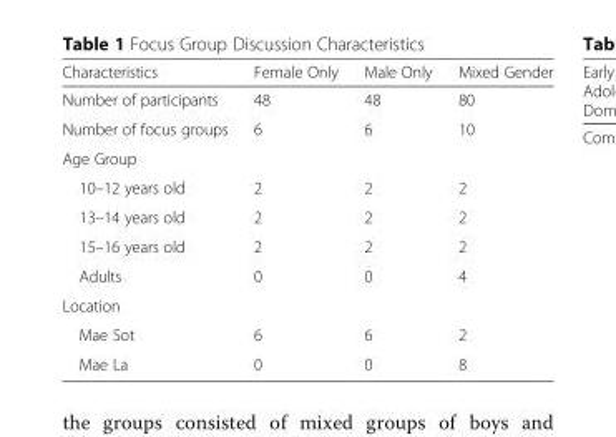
<table><thead><tr><td>Characteristics</td><td>Female Only</td><td>Male Only</td><td>Mixed Gender</td></tr></thead><tbody><tr><td>Number of participants</td><td>48</td><td>48</td><td>80</td></tr><tr><td>Number of focus groups</td><td>6</td><td>6</td><td>10</td></tr><tr><td colspan="4">Age Group</td></tr><tr><td>10–12 years old</td><td>2</td><td>2</td><td>2</td></tr><tr><td>13–14 years old</td><td>2</td><td>2</td><td>2</td></tr><tr><td>15–16 years old</td><td>2</td><td>2</td><td>2</td></tr><tr><td>Adults</td><td>0</td><td>0</td><td>4</td></tr><tr><td colspan="4">Location</td></tr><tr><td>Mae Sot</td><td>6</td><td>6</td><td>2</td></tr><tr><td>Mae La</td><td>0</td><td>0</td><td>8</td></tr></tbody></table>